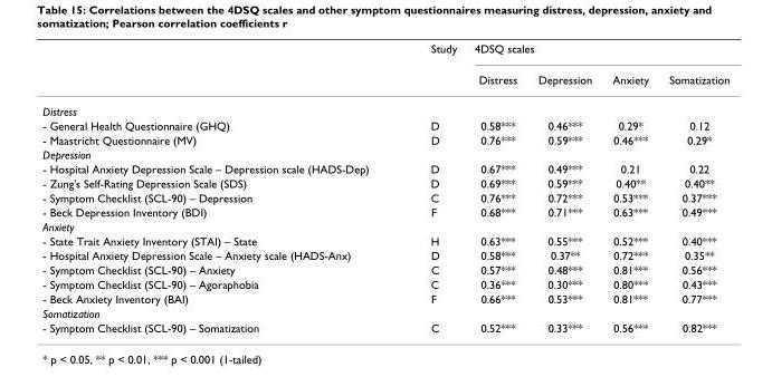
<table><thead><tr><td rowspan="2"></td><td rowspan="2">Study</td><td colspan="4">4DSQ scales</td></tr><tr><td>Distress</td><td>Depression</td><td>Anxiety</td><td>Somatization</td></tr></thead><tbody><tr><td colspan="6">Distress</td></tr><tr><td>- General Health Questionnaire (GHQ)</td><td>D</td><td>0.58***</td><td>0.46***</td><td>0.29*</td><td>0.12</td></tr><tr><td>- Maastricht Questionnaire (MV)</td><td>D</td><td>0.76***</td><td>0.59***</td><td>0.46***</td><td>0.29*</td></tr><tr><td colspan="6">Depression</td></tr><tr><td>- Hospital Anxiety Depression Scale – Depression scale (HADS-Dep)</td><td>D</td><td>0.67***</td><td>0.49***</td><td>0.21</td><td>0.22</td></tr><tr><td>- Zung&#x27;s Self-Rating Depression Scale (SDS)</td><td>D</td><td>0.69***</td><td>0.59***</td><td>0.40**</td><td>0.40**</td></tr><tr><td>- Symptom Checklist (SCL-90) – Depression</td><td>C</td><td>0.76***</td><td>0.72***</td><td>0.53***</td><td>0.37***</td></tr><tr><td>- Beck Depression Inventory (BDI)</td><td>F</td><td>0.68***</td><td>0.71***</td><td>0.63***</td><td>0.49***</td></tr><tr><td colspan="6">Anxiety</td></tr><tr><td>- State Trait Anxiety Inventory (STAI) – State</td><td>H</td><td>0.63***</td><td>0.55***</td><td>0.52***</td><td>0.40***</td></tr><tr><td>- Hospital Anxiety Depression Scale – Anxiety scale (HADS-Anx)</td><td>D</td><td>0.58***</td><td>0.37**</td><td>0.72***</td><td>0.35**</td></tr><tr><td>- Symptom Checklist (SCL-90) – Anxiety</td><td>C</td><td>0.57***</td><td>0.48***</td><td>0.81***</td><td>0.56***</td></tr><tr><td>- Symptom Checklist (SCL-90) – Agoraphobia</td><td>C</td><td>0.36***</td><td>0.30***</td><td>0.80***</td><td>0.43***</td></tr><tr><td>- Beck Anxiety Inventory (BAI)</td><td>F</td><td>0.66***</td><td>0.53***</td><td>0.81***</td><td>0.77***</td></tr><tr><td colspan="6">Somatization</td></tr><tr><td>- Symptom Checklist (SCL-90) – Somatization</td><td>C</td><td>0.52***</td><td>0.33***</td><td>0.56***</td><td>0.82***</td></tr></tbody></table>